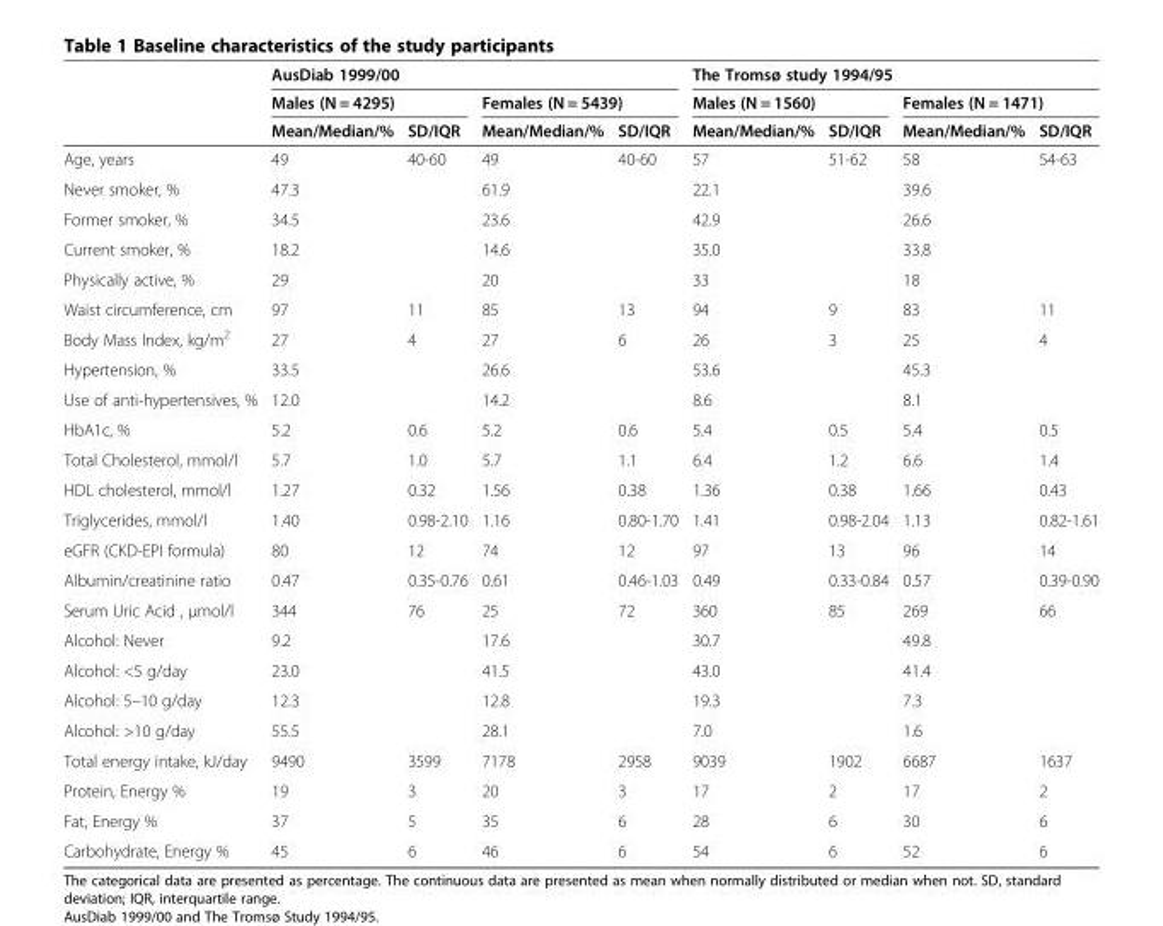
<table><thead><tr><td rowspan="3"></td><td colspan="4">AusDiab 1999/00</td><td colspan="4">The Tromsø study 1994/95</td></tr><tr><td colspan="2">Males (N = 4295)</td><td colspan="2">Females (N = 5439)</td><td colspan="2">Males (N = 1560)</td><td colspan="2">Females (N = 1471)</td></tr><tr><td>Mean/Median/%</td><td>SD/IQR</td><td>Mean/Median/%</td><td>SD/IQR</td><td>Mean/Median/%</td><td>SD/IQR</td><td>Mean/Median/%</td><td>SD/IQR</td></tr></thead><tbody><tr><td>Age, years</td><td>49</td><td>40-60</td><td>49</td><td>40-60</td><td>57</td><td>51-62</td><td>58</td><td>54-63</td></tr><tr><td>Never smoker, %</td><td>47.3</td><td></td><td>61.9</td><td></td><td>22.1</td><td></td><td>39.6</td><td></td></tr><tr><td>Former smoker, %</td><td>34.5</td><td></td><td>23.6</td><td></td><td>42.9</td><td></td><td>26.6</td><td></td></tr><tr><td>Current smoker, %</td><td>18.2</td><td></td><td>14.6</td><td></td><td>35.0</td><td></td><td>33.8</td><td></td></tr><tr><td>Physically active, %</td><td>29</td><td></td><td>20</td><td></td><td>33</td><td></td><td>18</td><td></td></tr><tr><td>Waist circumference, cm</td><td>97</td><td>11</td><td>85</td><td>13</td><td>94</td><td>9</td><td>83</td><td>11</td></tr><tr><td>Body Mass Index, kg/m<sup>2</sup></td><td>27</td><td>4</td><td>27</td><td>6</td><td>26</td><td>3</td><td>25</td><td>4</td></tr><tr><td>Hypertension, %</td><td>33.5</td><td></td><td>26.6</td><td></td><td>53.6</td><td></td><td>45.3</td><td></td></tr><tr><td>Use of anti-hypertensives, %</td><td>12.0</td><td></td><td>14.2</td><td></td><td>8.6</td><td></td><td>8.1</td><td></td></tr><tr><td>HbA1c, %</td><td>5.2</td><td>0.6</td><td>5.2</td><td>0.6</td><td>5.4</td><td>0.5</td><td>5.4</td><td>0.5</td></tr><tr><td>Total Cholesterol, mmol/l</td><td>5.7</td><td>1.0</td><td>5.7</td><td>1.1</td><td>6.4</td><td>1.2</td><td>6.6</td><td>1.4</td></tr><tr><td>HDL cholesterol, mmol/l</td><td>1.27</td><td>0.32</td><td>1.56</td><td>0.38</td><td>1.36</td><td>0.38</td><td>1.66</td><td>0.43</td></tr><tr><td>Triglycerides, mmol/l</td><td>1.40</td><td>0.98-2.10</td><td>1.16</td><td>0.80-1.70</td><td>1.41</td><td>0.98-2.04</td><td>1.13</td><td>0.82-1.61</td></tr><tr><td>eGFR (CKD-EPI formula)</td><td>80</td><td>12</td><td>74</td><td>12</td><td>97</td><td>13</td><td>96</td><td>14</td></tr><tr><td>Albumin/creatinine ratio</td><td>0.47</td><td>0.35-0.76</td><td>0.61</td><td>0.46-1.03</td><td>0.49</td><td>0.33-0.84</td><td>0.57</td><td>0.39-0.90</td></tr><tr><td>Serum Uric Acid , μmol/l</td><td>344</td><td>76</td><td>25</td><td>72</td><td>360</td><td>85</td><td>269</td><td>66</td></tr><tr><td>Alcohol: Never</td><td>9.2</td><td></td><td>17.6</td><td></td><td>30.7</td><td></td><td>49.8</td><td></td></tr><tr><td>Alcohol: &lt;5 g/day</td><td>23.0</td><td></td><td>41.5</td><td></td><td>43.0</td><td></td><td>41.4</td><td></td></tr><tr><td>Alcohol: 5–10 g/day</td><td>12.3</td><td></td><td>12.8</td><td></td><td>19.3</td><td></td><td>7.3</td><td></td></tr><tr><td>Alcohol: &gt;10 g/day</td><td>55.5</td><td></td><td>28.1</td><td></td><td>7.0</td><td></td><td>1.6</td><td></td></tr><tr><td>Total energy intake, kJ/day</td><td>9490</td><td>3599</td><td>7178</td><td>2958</td><td>9039</td><td>1902</td><td>6687</td><td>1637</td></tr><tr><td>Protein, Energy %</td><td>19</td><td>3</td><td>20</td><td>3</td><td>17</td><td>2</td><td>17</td><td>2</td></tr><tr><td>Fat, Energy %</td><td>37</td><td>5</td><td>35</td><td>6</td><td>28</td><td>6</td><td>30</td><td>6</td></tr><tr><td>Carbohydrate, Energy %</td><td>45</td><td>6</td><td>46</td><td>6</td><td>54</td><td>6</td><td>52</td><td>6</td></tr></tbody></table>